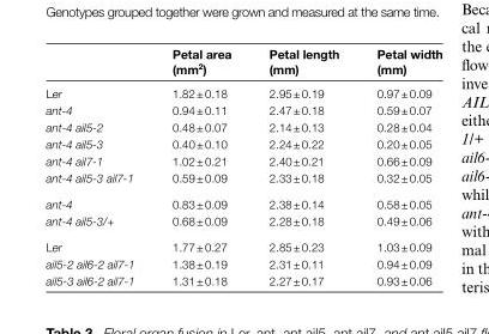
<table><thead><tr><td></td><td>Petal area (mm<sup>2</sup>)</td><td>Petal length (mm)</td><td>Petal width (mm)</td></tr></thead><tbody><tr><td>Ler</td><td>1.82 ± 0.18</td><td>2.95 ± 0.19</td><td>0.97 ± 0.09</td></tr><tr><td>ant-4</td><td>0.94 ± 0.11</td><td>2.47 ± 0.18</td><td>0.59 ± 0.07</td></tr><tr><td>ant-4 ail5-2</td><td>0.48 ± 0.07</td><td>2.14 ± 0.13</td><td>0.28 ± 0.04</td></tr><tr><td>ant-4 ail5-3</td><td>0.40 ± 0.10</td><td>2.24 ± 0.22</td><td>0.20 ± 0.05</td></tr><tr><td>ant-4 ail7-1</td><td>1.02 ± 0.21</td><td>2.40 ± 0.21</td><td>0.66 ± 0.09</td></tr><tr><td>ant-4 ail5-3 ail7-1</td><td>0.59 ± 0.09</td><td>2.33 ± 0.18</td><td>0.32 ± 0.05</td></tr><tr><td>ant-4</td><td>0.83 ± 0.09</td><td>2.38 ± 0.14</td><td>0.58 ± 0.05</td></tr><tr><td>ant-4 ail5-3/+</td><td>0.68 ± 0.09</td><td>2.28 ± 0.18</td><td>0.49 ± 0.06</td></tr><tr><td>Ler</td><td>1.77 ± 0.27</td><td>2.85 ± 0.23</td><td>1.03 ± 0.09</td></tr><tr><td>ail5-2 ail6-2 ail7-1</td><td>1.38 ± 0.19</td><td>2.31 ± 0.11</td><td>0.94 ± 0.09</td></tr><tr><td>ail5-3 ail6-2 ail7-1</td><td>1.31 ± 0.18</td><td>2.27 ± 0.17</td><td>0.93 ± 0.06</td></tr></tbody></table>